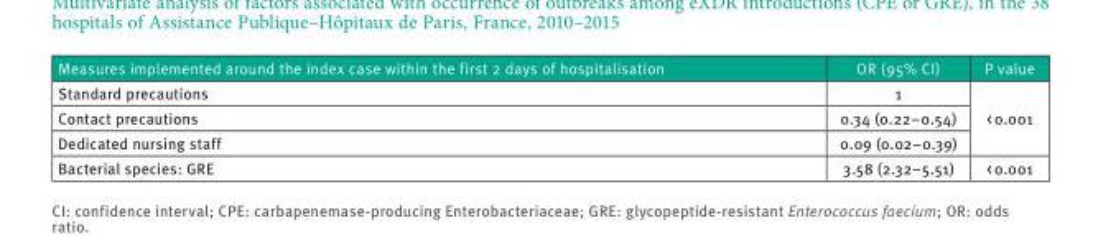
<table><thead><tr><td>Measures implemented around the index case within the first 2 days of hospitalisation</td><td>OR (95% CI)</td><td>P value</td></tr></thead><tbody><tr><td>Standard precautions</td><td>1</td><td rowspan="3">&lt; 0.001</td></tr><tr><td>Contact precautions</td><td>0.34 (0.22–0.54)</td></tr><tr><td>Dedicated nursing staff</td><td>0.09 (0.02–0.39)</td></tr><tr><td>Bacterial species: GRE</td><td>3.58 (2.32–5.51)</td><td>&lt; 0.001</td></tr></tbody></table>